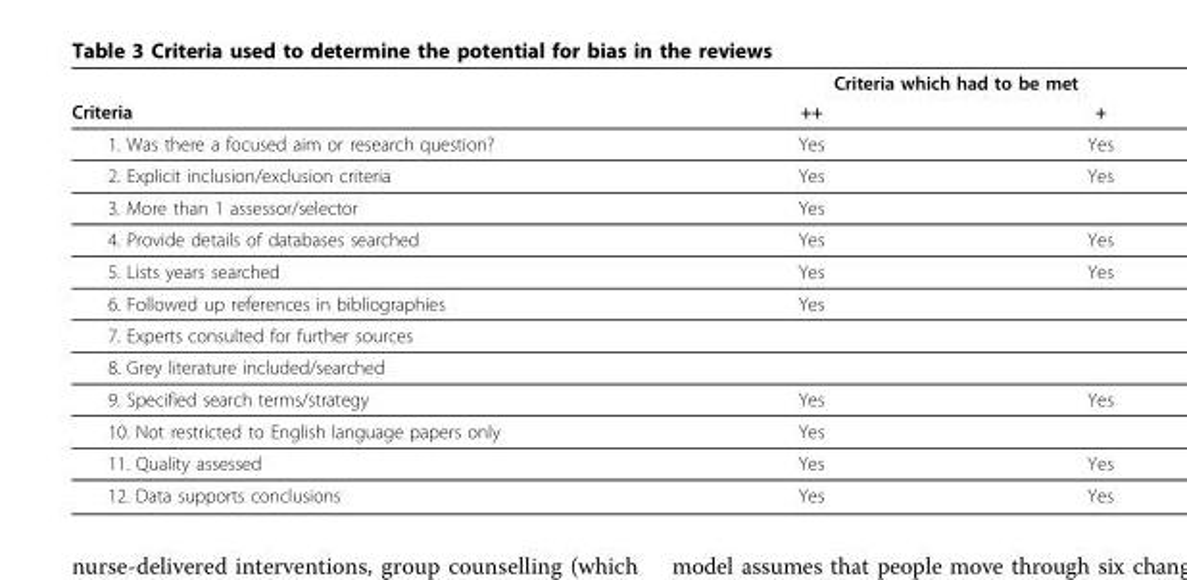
<table><thead><tr><td rowspan="2">Criteria</td><td colspan="2">Criteria which had to be met</td></tr><tr><td>++</td><td>+</td></tr></thead><tbody><tr><td>1. Was there a focused aim or research question?</td><td>Yes</td><td>Yes</td></tr><tr><td>2. Explicit inclusion/exclusion criteria</td><td>Yes</td><td>Yes</td></tr><tr><td>3. More than 1 assessor/selector</td><td>Yes</td><td></td></tr><tr><td>4. Provide details of databases searched</td><td>Yes</td><td>Yes</td></tr><tr><td>5. Lists years searched</td><td>Yes</td><td>Yes</td></tr><tr><td>6. Followed up references in bibliographies</td><td>Yes</td><td></td></tr><tr><td colspan="3">7. Experts consulted for further sources</td></tr><tr><td colspan="3">8. Grey literature included/searched</td></tr><tr><td>9. Specified search terms/strategy</td><td>Yes</td><td>Yes</td></tr><tr><td>10. Not restricted to English language papers only</td><td>Yes</td><td></td></tr><tr><td>11. Quality assessed</td><td>Yes</td><td>Yes</td></tr><tr><td>12. Data supports conclusions</td><td>Yes</td><td>Yes</td></tr></tbody></table>